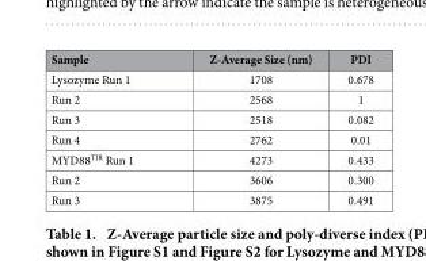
<table><thead><tr><td>Sample</td><td>Z-Average Size (nm)</td><td>PDI</td></tr></thead><tbody><tr><td>Lysozyme Run 1</td><td>1708</td><td>0.678</td></tr><tr><td>Run 2</td><td>2568</td><td>1</td></tr><tr><td>Run 3</td><td>2518</td><td>0.082</td></tr><tr><td>Run 4</td><td>2762</td><td>0.01</td></tr><tr><td>MYD88<sup>TIR</sup> Run 1</td><td>4273</td><td>0.433</td></tr><tr><td>Run 2</td><td>3606</td><td>0.300</td></tr><tr><td>Run 3</td><td>3875</td><td>0.491</td></tr></tbody></table>